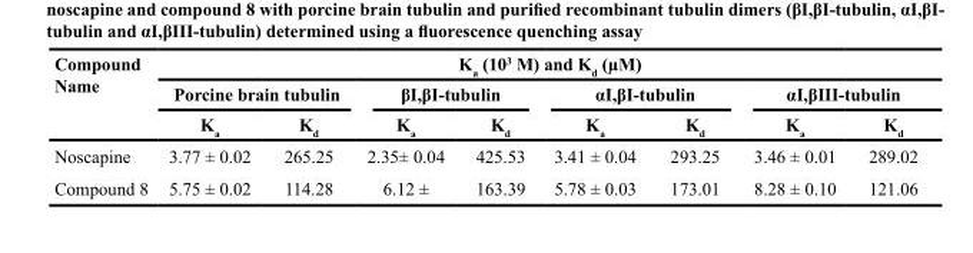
<table><thead><tr><td rowspan="3">Compound Name</td><td colspan="8">K<sub>a</sub> (10<sup>3</sup> M) and K<sub>d</sub> (µM)</td></tr><tr><td colspan="2">Porcine brain tubulin</td><td colspan="2">βI,βI-tubulin</td><td colspan="2">αI,βI-tubulin</td><td colspan="2">αI,βIII-tubulin</td></tr><tr><td>K<sub>a</sub></td><td>K<sub>d</sub></td><td>K<sub>a</sub></td><td>K<sub>d</sub></td><td>K<sub>a</sub></td><td>K<sub>d</sub></td><td>K<sub>a</sub></td><td>K<sub>d</sub></td></tr></thead><tbody><tr><td>Noscapine</td><td>3.77 ± 0.02</td><td>265.25</td><td>2.35± 0.04</td><td>425.53</td><td>3.41 ± 0.04</td><td>293.25</td><td>3.46 ± 0.01</td><td>289.02</td></tr><tr><td>Compound 8</td><td>5.75 ± 0.02</td><td>114.28</td><td>6.12 ±</td><td>163.39</td><td>5.78 ± 0.03</td><td>173.01</td><td>8.28 ± 0.10</td><td>121.06</td></tr></tbody></table>